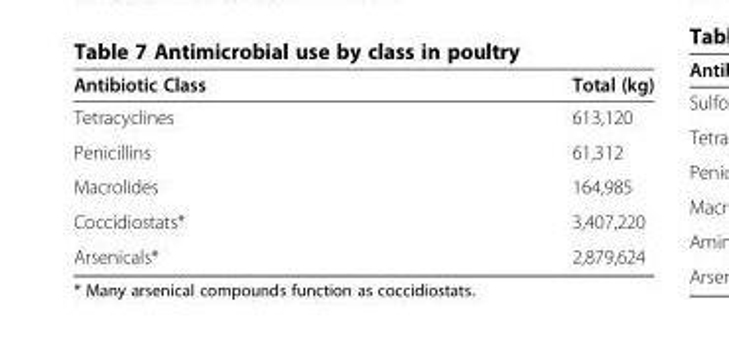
<table><thead><tr><td>Antibiotic Class</td><td>Total (kg)</td></tr></thead><tbody><tr><td>Tetracyclines</td><td>613,120</td></tr><tr><td>Penicillins</td><td>61,312</td></tr><tr><td>Macrolides</td><td>164,985</td></tr><tr><td>Coccidiostats*</td><td>3,407,220</td></tr><tr><td>Arsenicals*</td><td>2,879,624</td></tr></tbody></table>